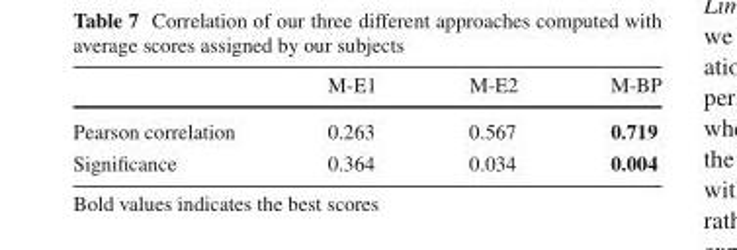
<table><thead><tr><td></td><td>M-E1</td><td>M-E2</td><td>M-BP</td></tr></thead><tbody><tr><td>Pearson correlation</td><td>0.263</td><td>0.567</td><td>0.719</td></tr><tr><td>Significance</td><td>0.364</td><td>0.034</td><td>0.004</td></tr></tbody></table>